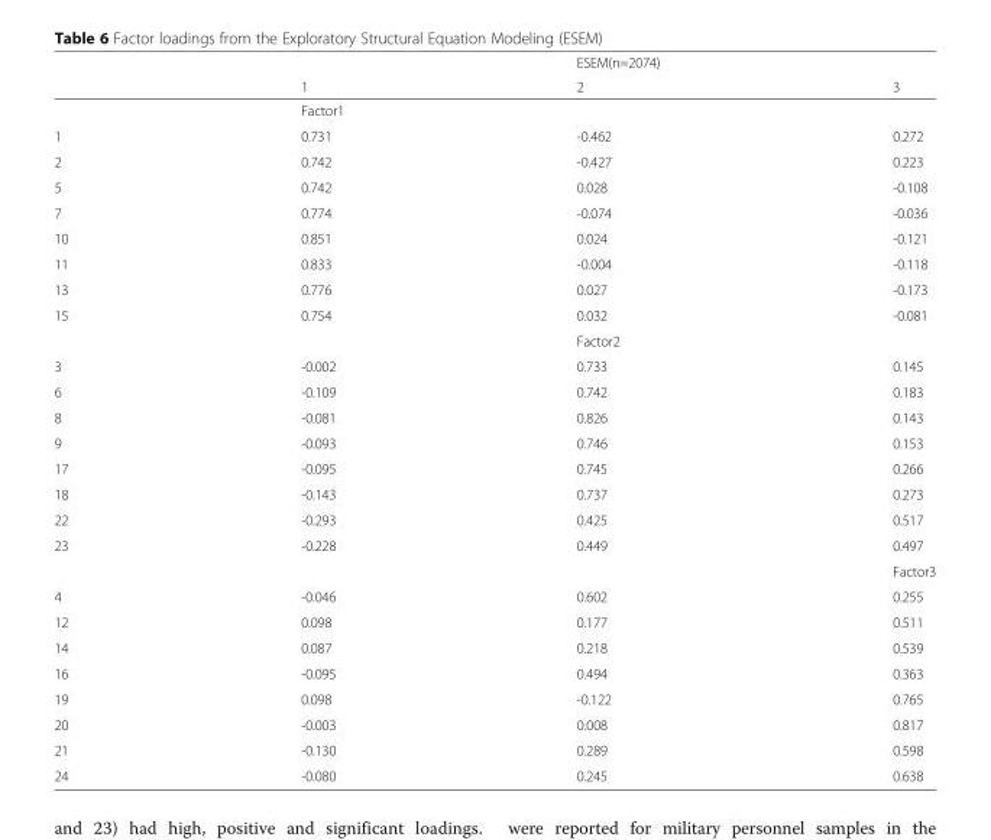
<table><thead><tr><td rowspan="2"></td><td rowspan="2">1</td><td rowspan="2">ESEM(n=2074) 2</td><td rowspan="2">3</td></tr><tr></tr></thead><tbody><tr><td></td><td>Factor1</td><td></td><td></td></tr><tr><td>1</td><td>0.731</td><td>-0.462</td><td>0.272</td></tr><tr><td>2</td><td>0.742</td><td>-0.427</td><td>0.223</td></tr><tr><td>5</td><td>0.742</td><td>0.028</td><td>-0.108</td></tr><tr><td>7</td><td>0.774</td><td>-0.074</td><td>-0.036</td></tr><tr><td>10</td><td>0.851</td><td>0.024</td><td>-0.121</td></tr><tr><td>11</td><td>0.833</td><td>-0.004</td><td>-0.118</td></tr><tr><td>13</td><td>0.776</td><td>0.027</td><td>-0.173</td></tr><tr><td rowspan="2">15</td><td>0.754</td><td>0.032</td><td>-0.081</td></tr><tr><td></td><td>Factor2</td><td></td></tr><tr><td>3</td><td>-0.002</td><td>0.733</td><td>0.145</td></tr><tr><td>6</td><td>-0.109</td><td>0.742</td><td>0.183</td></tr><tr><td>8</td><td>-0.081</td><td>0.826</td><td>0.143</td></tr><tr><td>9</td><td>-0.093</td><td>0.746</td><td>0.153</td></tr><tr><td>17</td><td>-0.095</td><td>0.745</td><td>0.266</td></tr><tr><td>18</td><td>-0.143</td><td>0.737</td><td>0.273</td></tr><tr><td>22</td><td>-0.293</td><td>0.425</td><td>0.517</td></tr><tr><td rowspan="2">23</td><td>-0.228</td><td>0.449</td><td>0.497</td></tr><tr><td></td><td></td><td>Factor3</td></tr><tr><td>4</td><td>-0.046</td><td>0.602</td><td>0.255</td></tr><tr><td>12</td><td>0.098</td><td>0.177</td><td>0.511</td></tr><tr><td>14</td><td>0.087</td><td>0.218</td><td>0.539</td></tr><tr><td>16</td><td>-0.095</td><td>0.494</td><td>0.363</td></tr><tr><td>19</td><td>0.098</td><td>-0.122</td><td>0.765</td></tr><tr><td>20</td><td>-0.003</td><td>0.008</td><td>0.817</td></tr><tr><td>21</td><td>-0.130</td><td>0.289</td><td>0.598</td></tr><tr><td>24</td><td>-0.080</td><td>0.245</td><td>0.638</td></tr></tbody></table>